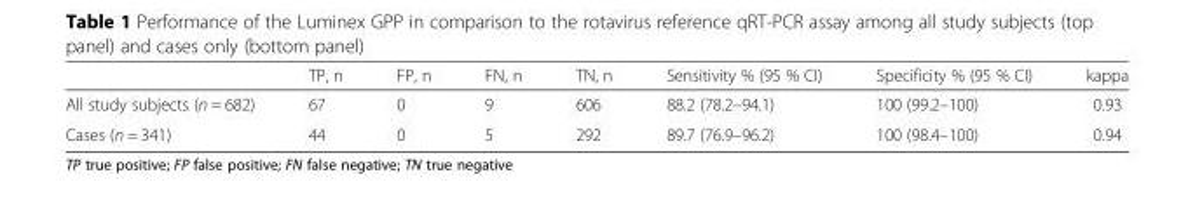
<table><thead><tr><td></td><td>TP, n</td><td>FP, n</td><td>FN, n</td><td>TN, n</td><td>Sensitivity % (95 % CI)</td><td>Specificity % (95 % CI)</td><td>kappa</td></tr></thead><tbody><tr><td>All study subjects (n = 682)</td><td>67</td><td>0</td><td>9</td><td>606</td><td>88.2 (78.2–94.1)</td><td>100 (99.2–100)</td><td>0.93</td></tr><tr><td>Cases (n = 341)</td><td>44</td><td>0</td><td>5</td><td>292</td><td>89.7 (76.9–96.2)</td><td>100 (98.4–100)</td><td>0.94</td></tr></tbody></table>